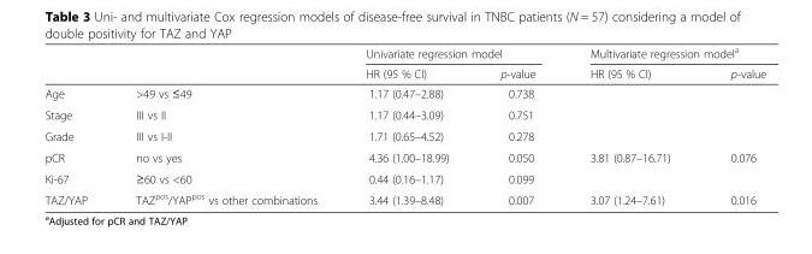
<table><thead><tr><td rowspan="2"></td><td rowspan="2"></td><td colspan="2">Univariate regression model</td><td colspan="2">Multivariate regression model<sup>a</sup></td></tr><tr><td>HR (95 % CI)</td><td>p-value</td><td>HR (95 % CI)</td><td>p-value</td></tr></thead><tbody><tr><td>Age</td><td>&gt;49 vs ≤49</td><td>1.17 (0.47–2.88)</td><td>0.738</td><td></td><td></td></tr><tr><td>Stage</td><td>III vs II</td><td>1.17 (0.44–3.09)</td><td>0.751</td><td></td><td></td></tr><tr><td>Grade</td><td>III vs I-II</td><td>1.71 (0.65–4.52)</td><td>0.278</td><td></td><td></td></tr><tr><td>pCR</td><td>no vs yes</td><td>4.36 (1.00–18.99)</td><td>0.050</td><td>3.81 (0.87–16.71)</td><td>0.076</td></tr><tr><td>Ki-67</td><td>≥60 vs &lt;60</td><td>0.44 (0.16–1.17)</td><td>0.099</td><td></td><td></td></tr><tr><td>TAZ/YAP</td><td>TAZ<sup>pos</sup>/YAP<sup>pos</sup> vs other combinations</td><td>3.44 (1.39–8.48)</td><td>0.007</td><td>3.07 (1.24–7.61)</td><td>0.016</td></tr></tbody></table>